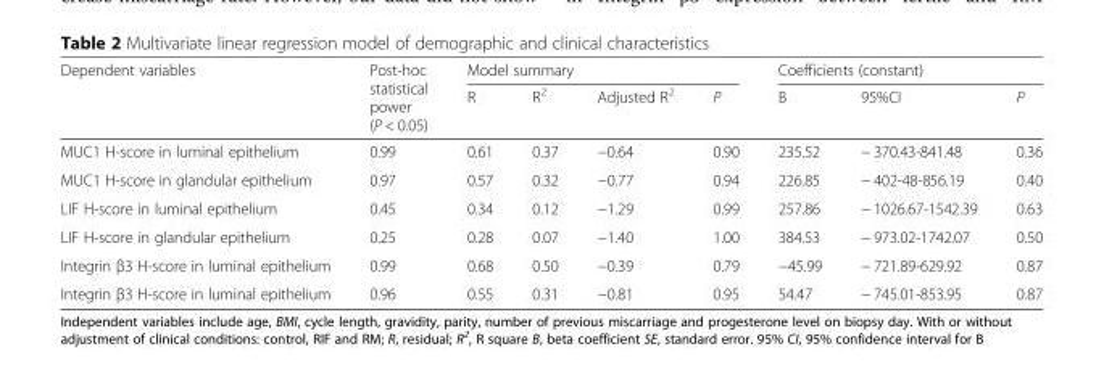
<table><thead><tr><td rowspan="2">Dependent variables</td><td rowspan="2">Post-hoc statistical power (P &lt; 0.05)</td><td colspan="4">Model summary</td><td colspan="3">Coefficients (constant)</td></tr><tr><td>R</td><td>R<sup>2</sup></td><td>Adjusted R<sup>2</sup></td><td>P</td><td>B</td><td>95%CI</td><td>P</td></tr></thead><tbody><tr><td>MUC1 H-score in luminal epithelium</td><td>0.99</td><td>0.61</td><td>0.37</td><td>−0.64</td><td>0.90</td><td>235.52</td><td>− 370.43-841.48</td><td>0.36</td></tr><tr><td>MUC1 H-score in glandular epithelium</td><td>0.97</td><td>0.57</td><td>0.32</td><td>−0.77</td><td>0.94</td><td>226.85</td><td>− 402-48-856.19</td><td>0.40</td></tr><tr><td>LIF H-score in luminal epithelium</td><td>0.45</td><td>0.34</td><td>0.12</td><td>−1.29</td><td>0.99</td><td>257.86</td><td>− 1026.67-1542.39</td><td>0.63</td></tr><tr><td>LIF H-score in glandular epithelium</td><td>0.25</td><td>0.28</td><td>0.07</td><td>−1.40</td><td>1.00</td><td>384.53</td><td>− 973.02-1742.07</td><td>0.50</td></tr><tr><td>Integrin β3 H-score in luminal epithelium</td><td>0.99</td><td>0.68</td><td>0.50</td><td>−0.39</td><td>0.79</td><td>−45.99</td><td>− 721.89-629.92</td><td>0.87</td></tr><tr><td>Integrin β3 H-score in luminal epithelium</td><td>0.96</td><td>0.55</td><td>0.31</td><td>−0.81</td><td>0.95</td><td>54.47</td><td>− 745.01-853.95</td><td>0.87</td></tr></tbody></table>